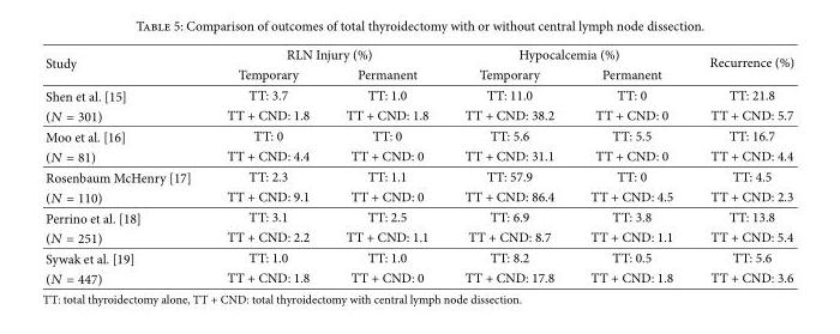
<table><thead><tr><td rowspan="2">Study</td><td colspan="2">RLN Injury (%)</td><td colspan="2">Hypocalcemia (%)</td><td rowspan="2">Recurrence (%)</td></tr><tr><td>Temporary</td><td>Permanent</td><td>Temporary</td><td>Permanent</td></tr></thead><tbody><tr><td>Shen et al. [15]</td><td>TT: 3.7</td><td>TT: 1.0</td><td>TT: 11.0</td><td>TT: 0</td><td>TT: 21.8</td></tr><tr><td>(𝑁𝑁 𝑁 𝑁𝑁𝑁)</td><td>TT + CND: 1.8</td><td>TT + CND: 1.8</td><td>TT + CND: 38.2</td><td>TT + CND: 0</td><td>TT + CND: 5.7</td></tr><tr><td>Moo et al. [16]</td><td>TT: 0</td><td>TT: 0</td><td>TT: 5.6</td><td>TT: 5.5</td><td>TT: 16.7</td></tr><tr><td>(𝑁𝑁 𝑁 𝑁𝑁)</td><td>TT + CND: 4.4</td><td>TT + CND: 0</td><td>TT + CND: 31.1</td><td>TT + CND: 0</td><td>TT + CND: 4.4</td></tr><tr><td>Rosenbaum McHenry [17]</td><td>TT: 2.3</td><td>TT: 1.1</td><td>TT: 57.9</td><td>TT: 0</td><td>TT: 4.5</td></tr><tr><td>(𝑁𝑁 𝑁 𝑁𝑁𝑁)</td><td>TT + CND: 9.1</td><td>TT + CND: 0</td><td>TT + CND: 86.4</td><td>TT + CND: 4.5</td><td>TT + CND: 2.3</td></tr><tr><td>Perrino et al. [18]</td><td>TT: 3.1</td><td>TT: 2.5</td><td>TT: 6.9</td><td>TT: 3.8</td><td>TT: 13.8</td></tr><tr><td>(𝑁𝑁 𝑁 𝑁𝑁𝑁)</td><td>TT + CND: 2.2</td><td>TT + CND: 1.1</td><td>TT + CND: 8.7</td><td>TT + CND: 1.1</td><td>TT + CND: 5.4</td></tr><tr><td>Sywak et al. [19]</td><td>TT: 1.0</td><td>TT: 1.0</td><td>TT: 8.2</td><td>TT: 0.5</td><td>TT: 5.6</td></tr><tr><td>(𝑁𝑁 𝑁 𝑁𝑁𝑁)</td><td>TT + CND: 1.8</td><td>TT + CND: 0</td><td>TT + CND: 17.8</td><td>TT + CND: 1.8</td><td>TT + CND: 3.6</td></tr></tbody></table>